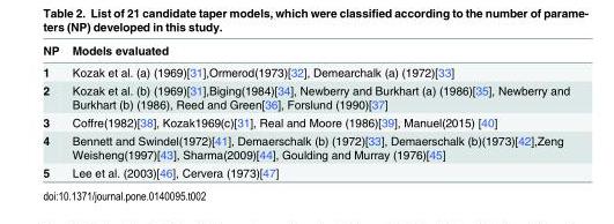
<table><thead><tr><td>NP</td><td>Models evaluated</td></tr></thead><tbody><tr><td>1</td><td>Kozak et al. (a) (1969)[31],Ormerod(1973)[32], Demearchalk (a) (1972)[33]</td></tr><tr><td>2</td><td>Kozak et al. (b) (1969)[31],Biging(1984)[34], Newberry and Burkhart (a) (1986)[35], Newberry and Burkhart (b) (1986), Reed and Green[36], Forslund (1990)[37]</td></tr><tr><td>3</td><td>Coffre(1982)[38], Kozak1969(c)[31], Real and Moore (1986)[39], Manuel(2015) [40]</td></tr><tr><td>4</td><td>Bennett and Swindel(1972)[41], Demaerschalk (b) (1972)[33], Demaerschalk (b)(1973)[42],Zeng Weisheng(1997)[43], Sharma(2009)[44], Goulding and Murray (1976)[45]</td></tr><tr><td>5</td><td>Lee et al. (2003)[46], Cervera (1973)[47]</td></tr></tbody></table>